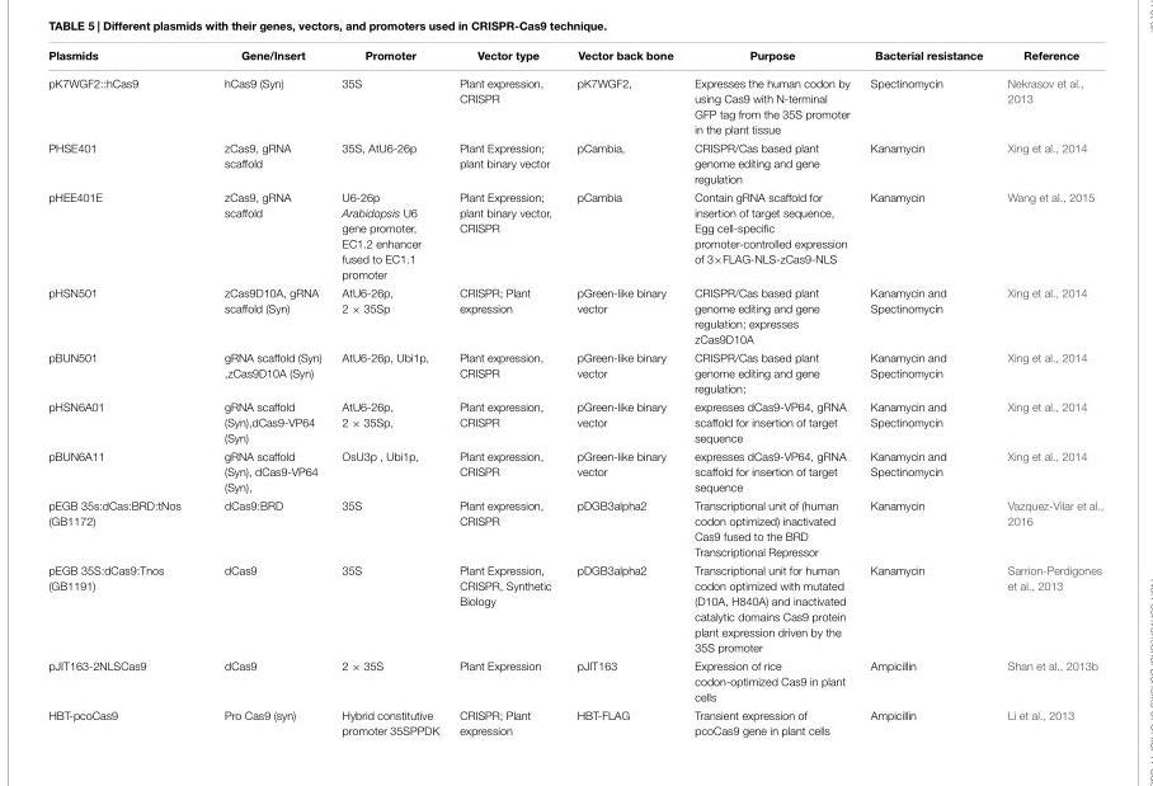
<table><thead><tr><td>Plasmids</td><td>Gene/Insert</td><td>Promoter</td><td>Vector type</td><td>Vector back bone</td><td>Purpose</td><td>Bacterial resistance</td><td>Reference</td></tr></thead><tbody><tr><td>pK7WGF2::hCas9</td><td>hCas9 (Syn)</td><td>35S</td><td>Plant expression, CRISPR</td><td>pK7WGF2,</td><td>Expresses the human codon by using Cas9 with N-terminal GFP tag from the 35S promoter in the plant tissue</td><td>Spectinomycin</td><td>Nekrasov et al., 2013</td></tr><tr><td>PHSE401</td><td>zCas9, gRNA scaffold</td><td>35S, AtU6-26p</td><td>Plant Expression; plant binary vector</td><td>pCambia,</td><td>CRISPR/Cas based plant genome editing and gene regulation</td><td>Kanamycin</td><td>Xing et al., 2014</td></tr><tr><td>pHEE401E</td><td>zCas9, gRNA scaffold</td><td>U6-26p Arabidopsis U6 gene promoter, EC1.2 enhancer fused to EC1.1 promoter</td><td>Plant Expression; plant binary vector, CRISPR</td><td>pCambia</td><td>Contain gRNA scaffold for insertion of target sequence, Egg cell-specific promoter-controlled expression of 3×FLAG-NLS-zCas9-NLS</td><td>Kanamycin</td><td>Wang et al., 2015</td></tr><tr><td>pHSN501</td><td>zCas9D10A, gRNA scaffold (Syn)</td><td>AtU6-26p, 2 × 35Sp</td><td>CRISPR; Plant expression</td><td>pGreen-like binary vector</td><td>CRISPR/Cas based plant genome editing and gene regulation; expresses zCas9D10A</td><td>Kanamycin and Spectinomycin</td><td>Xing et al., 2014</td></tr><tr><td>pBUN501</td><td>gRNA scaffold (Syn) ,zCas9D10A (Syn)</td><td>AtU6-26p, Ubi1p,</td><td>Plant expression, CRISPR</td><td>pGreen-like binary vector</td><td>CRISPR/Cas based plant genome editing and gene regulation;</td><td>Kanamycin and Spectinomycin</td><td>Xing et al., 2014</td></tr><tr><td>pHSN6A01</td><td>gRNA scaffold (Syn),dCas9-VP64 (Syn)</td><td>AtU6-26p, 2 × 35Sp,</td><td>Plant expression, CRISPR</td><td>pGreen-like binary vector</td><td>expresses dCas9-VP64, gRNA scaffold for insertion of target sequence</td><td>Kanamycin and Spectinomycin</td><td>Xing et al., 2014</td></tr><tr><td>pBUN6A11</td><td>gRNA scaffold (Syn), dCas9-VP64 (Syn),</td><td>OsU3p , Ubi1p,</td><td>Plant expression, CRISPR</td><td>pGreen-like binary vector</td><td>expresses dCas9-VP64, gRNA scaffold for insertion of target sequence</td><td>Kanamycin and Spectinomycin</td><td>Xing et al., 2014</td></tr><tr><td>pEGB 35s:dCas:BRD:tNos (GB1172)</td><td>dCas9:BRD</td><td>35S</td><td>Plant expression, CRISPR</td><td>pDGB3alpha2</td><td>Transcriptional unit of (human codon optimized) inactivated Cas9 fused to the BRD Transcriptional Repressor</td><td>Kanamycin</td><td>Vazquez-Vilar et al., 2016</td></tr><tr><td>pEGB 35S:dCas9:Tnos (GB1191)</td><td>dCas9</td><td>35S</td><td>Plant Expression, CRISPR, Synthetic Biology</td><td>pDGB3alpha2</td><td>Transcriptional unit for human codon optimized with mutated (D10A, H840A) and inactivated catalytic domains Cas9 protein plant expression driven by the 35S promoter</td><td>Kanamycin</td><td>Sarrion-Perdigones et al., 2013</td></tr><tr><td>pJIT163-2NLSCas9</td><td>dCas9</td><td>2 × 35S</td><td>Plant Expression</td><td>pJIT163</td><td>Expression of rice codon-optimized Cas9 in plant cells</td><td>Ampicillin</td><td>Shan et al., 2013b</td></tr><tr><td>HBT-pcoCas9</td><td>Pro Cas9 (syn)</td><td>Hybrid constitutive promoter 35SPPDK</td><td>CRISPR; Plant expression</td><td>HBT-FLAG</td><td>Transient expression of pcoCas9 gene in plant cells</td><td>Ampicillin</td><td>Li et al., 2013</td></tr></tbody></table>